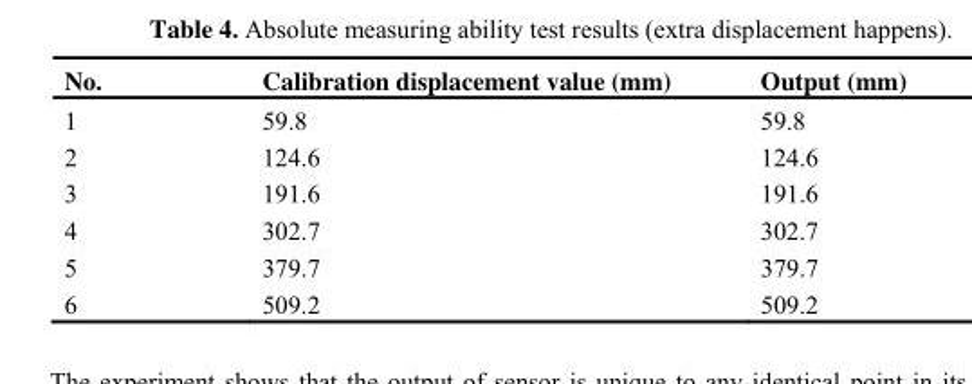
<table><thead><tr><td>No.</td><td>Calibration displacement value (mm)</td><td>Output (mm)</td></tr></thead><tbody><tr><td>1</td><td>59.8</td><td>59.8</td></tr><tr><td>2</td><td>124.6</td><td>124.6</td></tr><tr><td>3</td><td>191.6</td><td>191.6</td></tr><tr><td>4</td><td>302.7</td><td>302.7</td></tr><tr><td>5</td><td>379.7</td><td>379.7</td></tr><tr><td>6</td><td>509.2</td><td>509.2</td></tr></tbody></table>